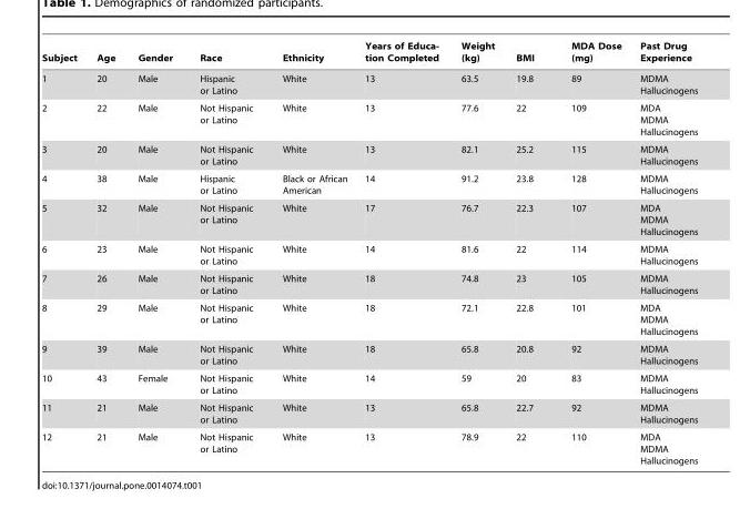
<table><thead><tr><td>Subject</td><td>Age</td><td>Gender</td><td>Race</td><td>Ethnicity</td><td>Years of Educa- tion Completed</td><td>Weight (kg)</td><td>BMI</td><td>MDA Dose (mg)</td><td>Past Drug Experience</td></tr></thead><tbody><tr><td>1</td><td>20</td><td>Male</td><td>Hispanic or Latino</td><td>White</td><td>13</td><td>63.5</td><td>19.8</td><td>89</td><td>MDMA Hallucinogens</td></tr><tr><td>2</td><td>22</td><td>Male</td><td>Not Hispanic or Latino</td><td>White</td><td>13</td><td>77.6</td><td>22</td><td>109</td><td>MDA MDMA Hallucinogens</td></tr><tr><td>3</td><td>20</td><td>Male</td><td>Not Hispanic or Latino</td><td>White</td><td>13</td><td>82.1</td><td>25.2</td><td>115</td><td>MDMA Hallucinogens</td></tr><tr><td>4</td><td>38</td><td>Male</td><td>Hispanic or Latino</td><td>Black or African American</td><td>14</td><td>91.2</td><td>23.8</td><td>128</td><td>MDMA Hallucinogens</td></tr><tr><td>5</td><td>32</td><td>Male</td><td>Not Hispanic or Latino</td><td>White</td><td>17</td><td>76.7</td><td>22.3</td><td>107</td><td>MDA MDMA Hallucinogens</td></tr><tr><td>6</td><td>23</td><td>Male</td><td>Not Hispanic or Latino</td><td>White</td><td>14</td><td>81.6</td><td>22</td><td>114</td><td>MDMA Hallucinogens</td></tr><tr><td>7</td><td>26</td><td>Male</td><td>Not Hispanic or Latino</td><td>White</td><td>18</td><td>74.8</td><td>23</td><td>105</td><td>MDMA Hallucinogens</td></tr><tr><td>8</td><td>29</td><td>Male</td><td>Not Hispanic or Latino</td><td>White</td><td>18</td><td>72.1</td><td>22.8</td><td>101</td><td>MDA MDMA Hallucinogens</td></tr><tr><td>9</td><td>39</td><td>Male</td><td>Not Hispanic or Latino</td><td>White</td><td>18</td><td>65.8</td><td>20.8</td><td>92</td><td>MDMA Hallucinogens</td></tr><tr><td>10</td><td>43</td><td>Female</td><td>Not Hispanic or Latino</td><td>White</td><td>14</td><td>59</td><td>20</td><td>83</td><td>MDMA Hallucinogens</td></tr><tr><td>11</td><td>21</td><td>Male</td><td>Not Hispanic or Latino</td><td>White</td><td>13</td><td>65.8</td><td>22.7</td><td>92</td><td>MDMA Hallucinogens</td></tr><tr><td>12</td><td>21</td><td>Male</td><td>Not Hispanic or Latino</td><td>White</td><td>13</td><td>78.9</td><td>22</td><td>110</td><td>MDA MDMA Hallucinogens</td></tr></tbody></table>